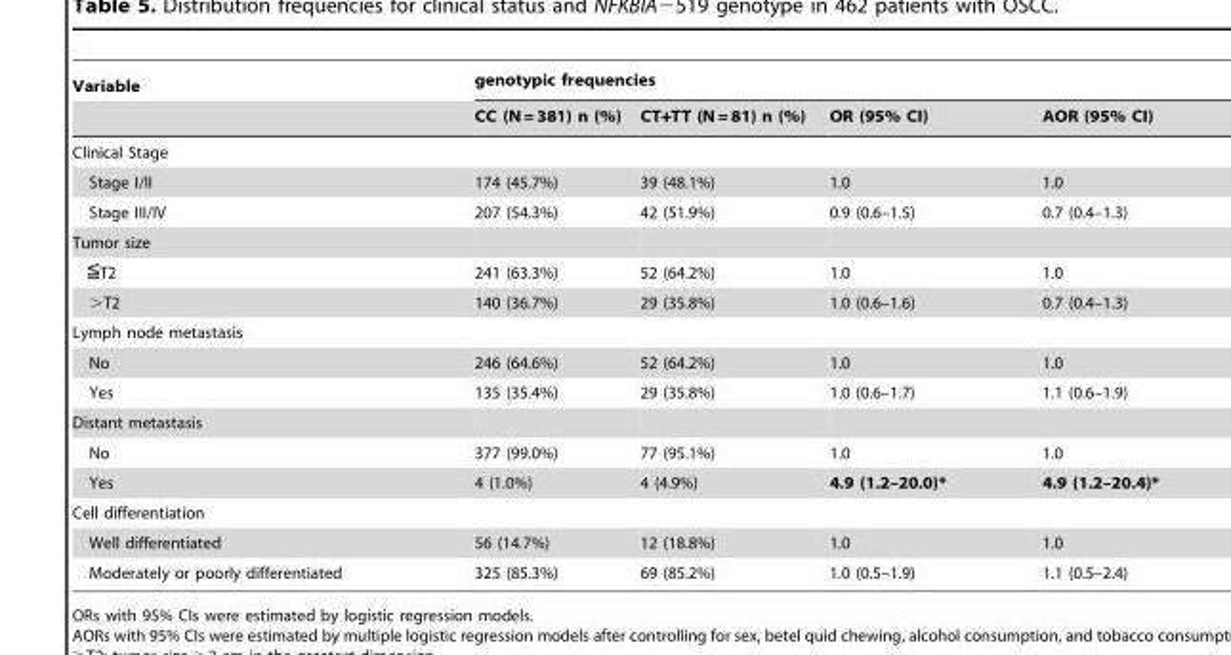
<table><thead><tr><td rowspan="2">Variable</td><td colspan="4">genotypic frequencies</td></tr><tr><td>CC (N = 381) n (%)</td><td>CT+TT (N = 81) n (%)</td><td>OR (95% CI)</td><td>AOR (95% CI)</td></tr></thead><tbody><tr><td colspan="5">Clinical Stage</td></tr><tr><td>Stage I/II</td><td>174 (45.7%)</td><td>39 (48.1%)</td><td>1.0</td><td>1.0</td></tr><tr><td>Stage III/IV</td><td>207 (54.3%)</td><td>42 (51.9%)</td><td>0.9 (0.6–1.5)</td><td>0.7 (0.4–1.3)</td></tr><tr><td colspan="5">Tumor size</td></tr><tr><td>T2</td><td>241 (63.3%)</td><td>52 (64.2%)</td><td>1.0</td><td>1.0</td></tr><tr><td>&gt;T2</td><td>140 (36.7%)</td><td>29 (35.8%)</td><td>1.0 (0.6–1.6)</td><td>0.7 (0.4–1.3)</td></tr><tr><td colspan="5">Lymph node metastasis</td></tr><tr><td>No</td><td>246 (64.6%)</td><td>52 (64.2%)</td><td>1.0</td><td>1.0</td></tr><tr><td>Yes</td><td>135 (35.4%)</td><td>29 (35.8%)</td><td>1.0 (0.6–1.7)</td><td>1.1 (0.6–1.9)</td></tr><tr><td colspan="5">Distant metastasis</td></tr><tr><td>No</td><td>377 (99.0%)</td><td>77 (95.1%)</td><td>1.0</td><td>1.0</td></tr><tr><td>Yes</td><td>4 (1.0%)</td><td>4 (4.9%)</td><td>4.9 (1.2–20.0)*</td><td>4.9 (1.2–20.4)*</td></tr><tr><td colspan="5">Cell differentiation</td></tr><tr><td>Well differentiated</td><td>56 (14.7%)</td><td>12 (18.8%)</td><td>1.0</td><td>1.0</td></tr><tr><td>Moderately or poorly differentiated</td><td>325 (85.3%)</td><td>69 (85.2%)</td><td>1.0 (0.5–1.9)</td><td>1.1 (0.5–2.4)</td></tr></tbody></table>